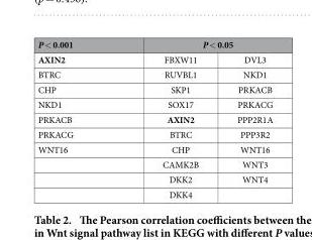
<table><thead><tr><td rowspan="2">P &lt; 0.001 AXIN2</td><td colspan="2">P &lt; 0.05</td></tr><tr><td>FBXW11</td><td>DVL3</td></tr></thead><tbody><tr><td>BTRC</td><td>RUVBL1</td><td>NKD1</td></tr><tr><td>CHP</td><td>SKP1</td><td>PRKACB</td></tr><tr><td>NKD1</td><td>SOX17</td><td>PRKACG</td></tr><tr><td>PRKACB</td><td>AXIN2</td><td>PPP2R1A</td></tr><tr><td>PRKACG</td><td>BTRC</td><td>PPP3R2</td></tr><tr><td rowspan="4">WNT16</td><td>CHP</td><td>WNT16</td></tr><tr><td>CAMK2B</td><td>WNT3</td></tr><tr><td>DKK2</td><td>WNT4</td></tr><tr><td>DKK4</td><td></td></tr></tbody></table>